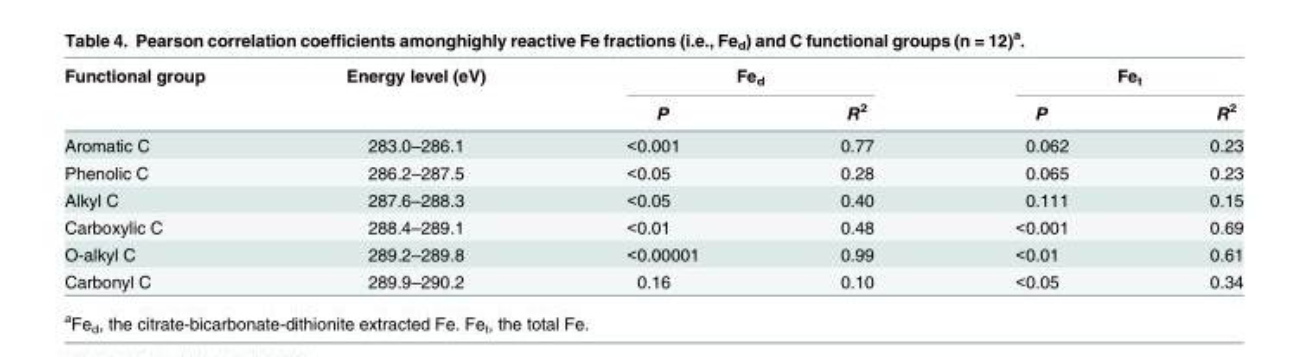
<table><thead><tr><td rowspan="2">Functional group</td><td rowspan="2">Energy level (eV)</td><td colspan="2">Fe<sub>d</sub></td><td colspan="2">Fe<sub>t</sub></td></tr><tr><td>P</td><td>R<sup>2</sup></td><td>P</td><td>R<sup>2</sup></td></tr></thead><tbody><tr><td>Aromatic C</td><td>283.0–286.1</td><td>&lt;0.001</td><td>0.77</td><td>0.062</td><td>0.23</td></tr><tr><td>Phenolic C</td><td>286.2–287.5</td><td>&lt;0.05</td><td>0.28</td><td>0.065</td><td>0.23</td></tr><tr><td>Alkyl C</td><td>287.6–288.3</td><td>&lt;0.05</td><td>0.40</td><td>0.111</td><td>0.15</td></tr><tr><td>Carboxylic C</td><td>288.4–289.1</td><td>&lt;0.01</td><td>0.48</td><td>&lt;0.001</td><td>0.69</td></tr><tr><td>O-alkyl C</td><td>289.2–289.8</td><td>&lt;0.00001</td><td>0.99</td><td>&lt;0.01</td><td>0.61</td></tr><tr><td>Carbonyl C</td><td>289.9–290.2</td><td>0.16</td><td>0.10</td><td>&lt;0.05</td><td>0.34</td></tr></tbody></table>